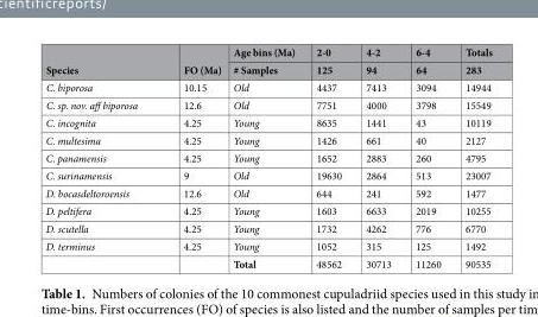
<table><thead><tr><td rowspan="2">Species</td><td rowspan="2">FO (Ma)</td><td rowspan="2">Age bins (Ma) # Samples</td><td rowspan="2">2-0 125</td><td rowspan="2">4-2 94</td><td rowspan="2">6-4 64</td><td rowspan="2">Totals 283</td></tr><tr></tr></thead><tbody><tr><td>C. biporosa</td><td>10.15</td><td>Old</td><td>4437</td><td>7413</td><td>3094</td><td>14944</td></tr><tr><td>C. sp. nov. aff biporosa</td><td>12.6</td><td>Old</td><td>7751</td><td>4000</td><td>3798</td><td>15549</td></tr><tr><td>C. incognita</td><td>4.25</td><td>Young</td><td>8635</td><td>1441</td><td>43</td><td>10119</td></tr><tr><td>C. multesima</td><td>4.25</td><td>Young</td><td>1426</td><td>661</td><td>40</td><td>2127</td></tr><tr><td>C. panamensis</td><td>4.25</td><td>Young</td><td>1652</td><td>2883</td><td>260</td><td>4795</td></tr><tr><td>C. surinamensis</td><td>9</td><td>Old</td><td>19630</td><td>2864</td><td>513</td><td>23007</td></tr><tr><td>D. bocasdeltoroensis</td><td>12.6</td><td>Old</td><td>644</td><td>241</td><td>592</td><td>1477</td></tr><tr><td>D. peltifera</td><td>4.25</td><td>Young</td><td>1603</td><td>6633</td><td>2019</td><td>10255</td></tr><tr><td>D. scutella</td><td>4.25</td><td>Young</td><td>1732</td><td>4262</td><td>776</td><td>6770</td></tr><tr><td rowspan="2">D. terminus</td><td>4.25</td><td>Young</td><td>1052</td><td>315</td><td>125</td><td>1492</td></tr><tr><td></td><td>Total</td><td>48562</td><td>30713</td><td>11260</td><td>90535</td></tr></tbody></table>